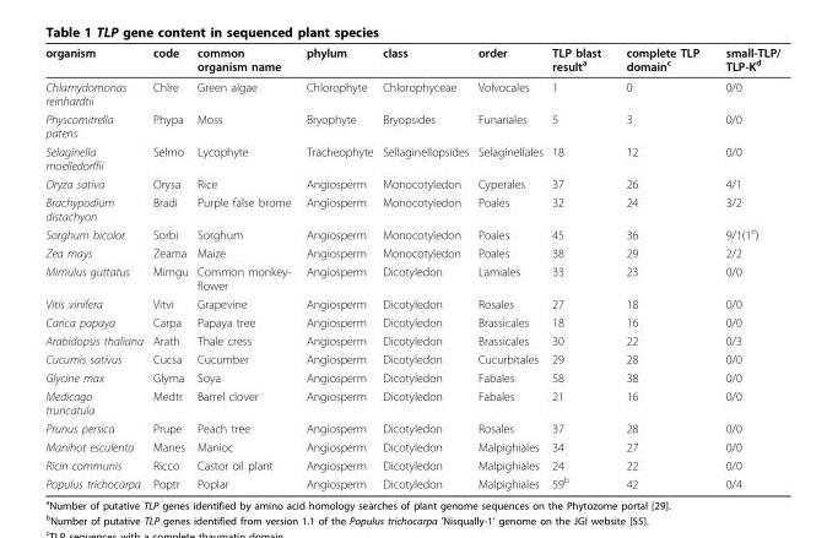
<table><thead><tr><td>organism</td><td>code</td><td>common organism name</td><td>phylum</td><td>class</td><td>order</td><td>TLP blast result<sup>a</sup></td><td>complete TLP domain<sup>c</sup></td><td>small-TLP/ TLP-K<sup>d</sup></td></tr></thead><tbody><tr><td>Chlamydomonas reinhardtii</td><td>Chlre</td><td>Green algae</td><td>Chlorophyte</td><td>Chlorophyceae</td><td>Volvocales</td><td>1</td><td>0</td><td>0/0</td></tr><tr><td>Physcomitrella patens</td><td>Phypa</td><td>Moss</td><td>Bryophyte</td><td>Bryopsides</td><td>Funariales</td><td>5</td><td>3</td><td>0/0</td></tr><tr><td>Selaginella moelledorffii</td><td>Selmo</td><td>Lycophyte</td><td>Tracheophyte</td><td>Sellaginellopsides</td><td>Selaginellales</td><td>18</td><td>12</td><td>0/0</td></tr><tr><td>Oryza sativa</td><td>Orysa</td><td>Rice</td><td>Angiosperm</td><td>Monocotyledon</td><td>Cyperales</td><td>37</td><td>26</td><td>4/1</td></tr><tr><td>Brachypodium distachyon</td><td>Bradi</td><td>Purple false brome</td><td>Angiosperm</td><td>Monocotyledon</td><td>Poales</td><td>32</td><td>24</td><td>3/2</td></tr><tr><td>Sorghum bicolor</td><td>Sorbi</td><td>Sorghum</td><td>Angiosperm</td><td>Monocotyledon</td><td>Poales</td><td>45</td><td>36</td><td>9/1(1<sup>e</sup>)</td></tr><tr><td>Zea mays</td><td>Zeama</td><td>Maize</td><td>Angiosperm</td><td>Monocotyledon</td><td>Poales</td><td>38</td><td>29</td><td>2/2</td></tr><tr><td>Mimulus guttatus</td><td>Mimgu</td><td>Common monkey- flower</td><td>Angiosperm</td><td>Dicotyledon</td><td>Lamiales</td><td>33</td><td>23</td><td>0/0</td></tr><tr><td>Vitis vinifera</td><td>Vitvi</td><td>Grapevine</td><td>Angiosperm</td><td>Dicotyledon</td><td>Rosales</td><td>27</td><td>18</td><td>0/0</td></tr><tr><td>Carica papaya</td><td>Carpa</td><td>Papaya tree</td><td>Angiosperm</td><td>Dicotyledon</td><td>Brassicales</td><td>18</td><td>16</td><td>0/0</td></tr><tr><td>Arabidopsis thaliana</td><td>Arath</td><td>Thale cress</td><td>Angiosperm</td><td>Dicotyledon</td><td>Brassicales</td><td>30</td><td>22</td><td>0/3</td></tr><tr><td>Cucumis sativus</td><td>Cucsa</td><td>Cucumber</td><td>Angiosperm</td><td>Dicotyledon</td><td>Cucurbitales</td><td>29</td><td>28</td><td>0/0</td></tr><tr><td>Glycine max</td><td>Glyma</td><td>Soya</td><td>Angiosperm</td><td>Dicotyledon</td><td>Fabales</td><td>58</td><td>38</td><td>0/0</td></tr><tr><td>Medicago truncatula</td><td>Medtr</td><td>Barrel clover</td><td>Angiosperm</td><td>Dicotyledon</td><td>Fabales</td><td>21</td><td>16</td><td>0/0</td></tr><tr><td>Prunus persica</td><td>Prupe</td><td>Peach tree</td><td>Angiosperm</td><td>Dicotyledon</td><td>Rosales</td><td>37</td><td>28</td><td>0/0</td></tr><tr><td>Manihot esculenta</td><td>Manes</td><td>Manioc</td><td>Angiosperm</td><td>Dicotyledon</td><td>Malpighiales</td><td>34</td><td>27</td><td>0/0</td></tr><tr><td>Ricin communis</td><td>Ricco</td><td>Castor oil plant</td><td>Angiosperm</td><td>Dicotyledon</td><td>Malpighiales</td><td>24</td><td>22</td><td>0/0</td></tr><tr><td>Populus trichocarpa</td><td>Poptr</td><td>Poplar</td><td>Angiosperm</td><td>Dicotyledon</td><td>Malpighiales</td><td>59<sup>b</sup></td><td>42</td><td>0/4</td></tr></tbody></table>